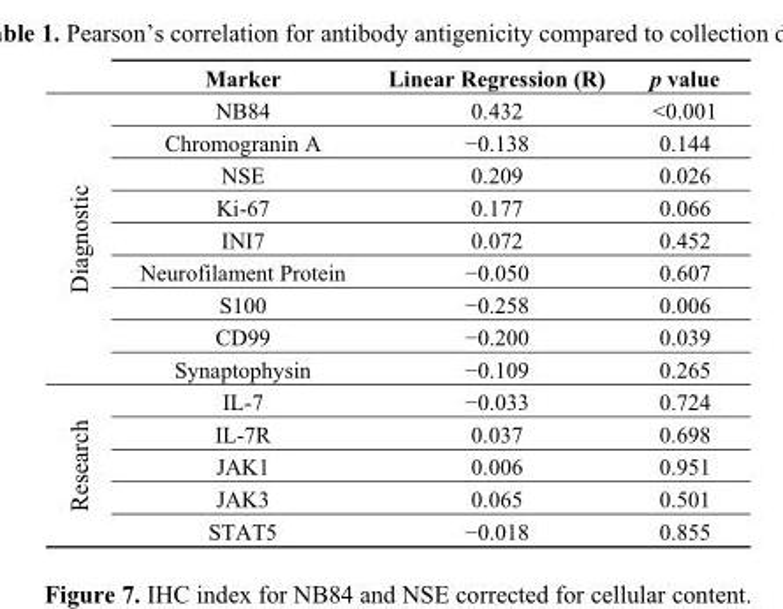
<table><thead><tr><td></td><td>Marker</td><td>Linear Regression (R)</td><td>p value</td></tr></thead><tbody><tr><td rowspan="9">Diagnostic</td><td>NB84</td><td>0.432</td><td>&lt;0.001</td></tr><tr><td>Chromogranin A</td><td>−0.138</td><td>0.144</td></tr><tr><td>NSE</td><td>0.209</td><td>0.026</td></tr><tr><td>Ki-67</td><td>0.177</td><td>0.066</td></tr><tr><td>INI7</td><td>0.072</td><td>0.452</td></tr><tr><td>Neurofilament Protein</td><td>−0.050</td><td>0.607</td></tr><tr><td>S100</td><td>−0.258</td><td>0.006</td></tr><tr><td>CD99</td><td>−0.200</td><td>0.039</td></tr><tr><td>Synaptophysin</td><td>−0.109</td><td>0.265</td></tr><tr><td rowspan="5">Research</td><td>IL-7</td><td>−0.033</td><td>0.724</td></tr><tr><td>IL-7R</td><td>0.037</td><td>0.698</td></tr><tr><td>JAK1</td><td>0.006</td><td>0.951</td></tr><tr><td>JAK3</td><td>0.065</td><td>0.501</td></tr><tr><td>STAT5</td><td>−0.018</td><td>0.855</td></tr></tbody></table>